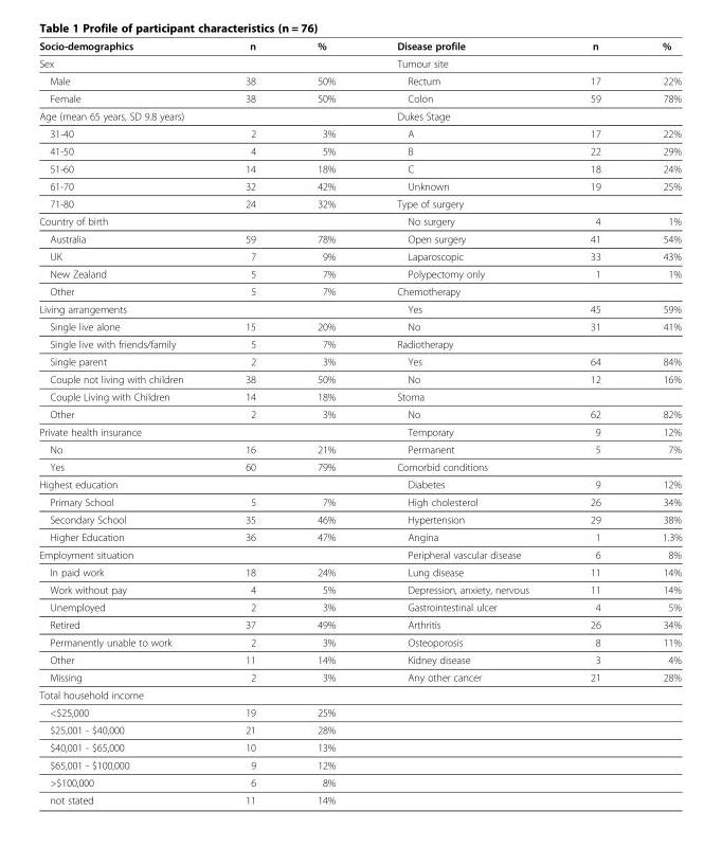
<table><thead><tr><td>Socio-demographics</td><td>n</td><td>%</td><td>Disease profile</td><td>n</td><td>%</td></tr></thead><tbody><tr><td>Sex</td><td></td><td></td><td>Tumour site</td><td></td><td></td></tr><tr><td>Male</td><td>38</td><td>50%</td><td>Rectum</td><td>17</td><td>22%</td></tr><tr><td>Female</td><td>38</td><td>50%</td><td>Colon</td><td>59</td><td>78%</td></tr><tr><td>Age (mean 65 years, SD 9.8 years)</td><td></td><td></td><td>Dukes Stage</td><td></td><td></td></tr><tr><td>31-40</td><td>2</td><td>3%</td><td>A</td><td>17</td><td>22%</td></tr><tr><td>41-50</td><td>4</td><td>5%</td><td>B</td><td>22</td><td>29%</td></tr><tr><td>51-60</td><td>14</td><td>18%</td><td>C</td><td>18</td><td>24%</td></tr><tr><td>61-70</td><td>32</td><td>42%</td><td>Unknown</td><td>19</td><td>25%</td></tr><tr><td>71-80</td><td>24</td><td>32%</td><td>Type of surgery</td><td></td><td></td></tr><tr><td>Country of birth</td><td></td><td></td><td>No surgery</td><td>4</td><td>1%</td></tr><tr><td>Australia</td><td>59</td><td>78%</td><td>Open surgery</td><td>41</td><td>54%</td></tr><tr><td>UK</td><td>7</td><td>9%</td><td>Laparoscopic</td><td>33</td><td>43%</td></tr><tr><td>New Zealand</td><td>5</td><td>7%</td><td>Polypectomy only</td><td>1</td><td>1%</td></tr><tr><td>Other</td><td>5</td><td>7%</td><td>Chemotherapy</td><td></td><td></td></tr><tr><td>Living arrangements</td><td></td><td></td><td>Yes</td><td>45</td><td>59%</td></tr><tr><td>Single live alone</td><td>15</td><td>20%</td><td>No</td><td>31</td><td>41%</td></tr><tr><td>Single live with friends/family</td><td>5</td><td>7%</td><td>Radiotherapy</td><td></td><td></td></tr><tr><td>Single parent</td><td>2</td><td>3%</td><td>Yes</td><td>64</td><td>84%</td></tr><tr><td>Couple not living with children</td><td>38</td><td>50%</td><td>No</td><td>12</td><td>16%</td></tr><tr><td>Couple Living with Children</td><td>14</td><td>18%</td><td>Stoma</td><td></td><td></td></tr><tr><td>Other</td><td>2</td><td>3%</td><td>No</td><td>62</td><td>82%</td></tr><tr><td>Private health insurance</td><td></td><td></td><td>Temporary</td><td>9</td><td>12%</td></tr><tr><td>No</td><td>16</td><td>21%</td><td>Permanent</td><td>5</td><td>7%</td></tr><tr><td>Yes</td><td>60</td><td>79%</td><td>Comorbid conditions</td><td></td><td></td></tr><tr><td>Highest education</td><td></td><td></td><td>Diabetes</td><td>9</td><td>12%</td></tr><tr><td>Primary School</td><td>5</td><td>7%</td><td>High cholesterol</td><td>26</td><td>34%</td></tr><tr><td>Secondary School</td><td>35</td><td>46%</td><td>Hypertension</td><td>29</td><td>38%</td></tr><tr><td>Higher Education</td><td>36</td><td>47%</td><td>Angina</td><td>1</td><td>1.3%</td></tr><tr><td>Employment situation</td><td></td><td></td><td>Peripheral vascular disease</td><td>6</td><td>8%</td></tr><tr><td>In paid work</td><td>18</td><td>24%</td><td>Lung disease</td><td>11</td><td>14%</td></tr><tr><td>Work without pay</td><td>4</td><td>5%</td><td>Depression, anxiety, nervous</td><td>11</td><td>14%</td></tr><tr><td>Unemployed</td><td>2</td><td>3%</td><td>Gastrointestinal ulcer</td><td>4</td><td>5%</td></tr><tr><td>Retired</td><td>37</td><td>49%</td><td>Arthritis</td><td>26</td><td>34%</td></tr><tr><td>Permanently unable to work</td><td>2</td><td>3%</td><td>Osteoporosis</td><td>8</td><td>11%</td></tr><tr><td>Other</td><td>11</td><td>14%</td><td>Kidney disease</td><td>3</td><td>4%</td></tr><tr><td>Missing</td><td>2</td><td>3%</td><td>Any other cancer</td><td>21</td><td>28%</td></tr><tr><td colspan="6">Total household income</td></tr><tr><td>&lt;$25,000</td><td>19</td><td>25%</td><td></td><td></td><td></td></tr><tr><td>$25,001 - $40,000</td><td>21</td><td>28%</td><td></td><td></td><td></td></tr><tr><td>$40,001 - $65,000</td><td>10</td><td>13%</td><td></td><td></td><td></td></tr><tr><td>$65,001 - $100,000</td><td>9</td><td>12%</td><td></td><td></td><td></td></tr><tr><td>&gt;$100,000</td><td>6</td><td>8%</td><td></td><td></td><td></td></tr><tr><td>not stated</td><td>11</td><td>14%</td><td></td><td></td><td></td></tr></tbody></table>